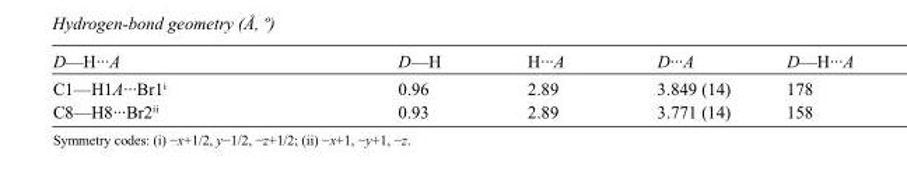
<table><tbody><tr><td>D—H···A</td><td>D—H</td><td>H···A</td><td>D···A</td><td>D—H···A</td></tr><tr><td>C1—H1A···Br1<sup>i</sup></td><td>0.96</td><td>2.89</td><td>3.849 (14)</td><td>178</td></tr><tr><td>C8—H8···Br2<sup>ii</sup></td><td>0.93</td><td>2.89</td><td>3.771 (14)</td><td>158</td></tr></tbody></table>